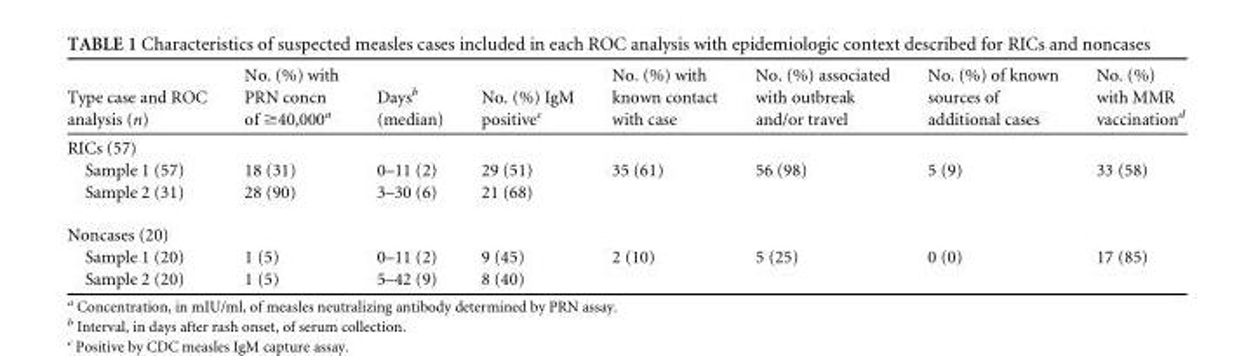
<table><thead><tr><td>Type case and ROC analysis (n)</td><td>No. (%) with PRN concn of ≥40,000<sup>a</sup></td><td>Days<sup>b</sup> (median)</td><td>No. (%) IgM positive<sup>c</sup></td><td>No. (%) with known contact with case</td><td>No. (%) associated with outbreak and/or travel</td><td>No. (%) of known sources of additional cases</td><td>No. (%) with MMR vaccination<sup>d</sup></td></tr></thead><tbody><tr><td colspan="8">RICs (57)</td></tr><tr><td>Sample 1 (57)</td><td>18 (31)</td><td>0–11 (2)</td><td>29 (51)</td><td rowspan="2">35 (61)</td><td rowspan="2">56 (98)</td><td rowspan="2">5 (9)</td><td rowspan="2">33 (58)</td></tr><tr><td>Sample 2 (31)</td><td>28 (90)</td><td>3–30 (6)</td><td>21 (68)</td></tr><tr><td colspan="8">Noncases (20)</td></tr><tr><td>Sample 1 (20)</td><td>1 (5)</td><td>0–11 (2)</td><td>9 (45)</td><td rowspan="2">2 (10)</td><td rowspan="2">5 (25)</td><td rowspan="2">0 (0)</td><td rowspan="2">17 (85)</td></tr><tr><td>Sample 2 (20)</td><td>1 (5)</td><td>5–42 (9)</td><td>8 (40)</td></tr></tbody></table>